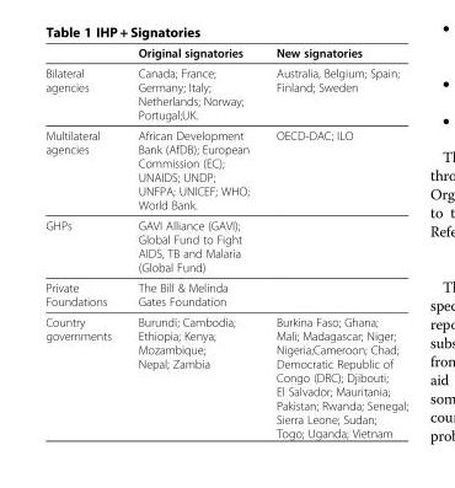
<table><thead><tr><td></td><td>Original signatories</td><td>New signatories</td></tr></thead><tbody><tr><td>Bilateral agencies</td><td>Canada; France; Germany; Italy; Netherlands; Norway; Portugal;UK.</td><td>Australia, Belgium; Spain; Finland; Sweden</td></tr><tr><td>Multilateral agencies</td><td>African Development Bank (AfDB); European Commission (EC); UNAIDS; UNDP; UNFPA; UNICEF; WHO; World Bank.</td><td>OECD-DAC; ILO</td></tr><tr><td>GHPs</td><td>GAVI Alliance (GAVI); Global Fund to Fight AIDS, TB and Malaria (Global Fund)</td><td></td></tr><tr><td>Private Foundations</td><td>The Bill &amp; Melinda Gates Foundation</td><td></td></tr><tr><td>Country governments</td><td>Burundi; Cambodia; Ethiopia; Kenya; Mozambique; Nepal; Zambia</td><td>Burkina Faso; Ghana; Mali; Madagascar; Niger; Nigeria;Cameroon; Chad; Democratic Republic of Congo (DRC); Djibouti; El Salvador; Mauritania; Pakistan; Rwanda; Senegal; Sierra Leone; Sudan; Togo; Uganda; Vietnam</td></tr></tbody></table>